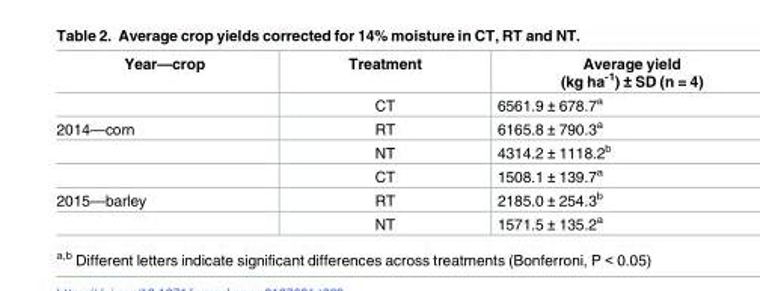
<table><thead><tr><td>Year—crop</td><td>Treatment</td><td>Average yield (kg ha<sup>-1</sup>) ± SD (n = 4)</td></tr></thead><tbody><tr><td></td><td>CT</td><td>6561.9 ± 678.7<sup>a</sup></td></tr><tr><td rowspan="3">2014—corn</td><td>RT</td><td>6165.8 ± 790.3<sup>a</sup></td></tr><tr><td>NT</td><td>4314.2 ± 1118.2<sup>b</sup></td></tr><tr><td>CT</td><td>1508.1 ± 139.7<sup>a</sup></td></tr><tr><td rowspan="2">2015—barley</td><td>RT</td><td>2185.0 ± 254.3<sup>b</sup></td></tr><tr><td>NT</td><td>1571.5 ± 135.2<sup>a</sup></td></tr></tbody></table>